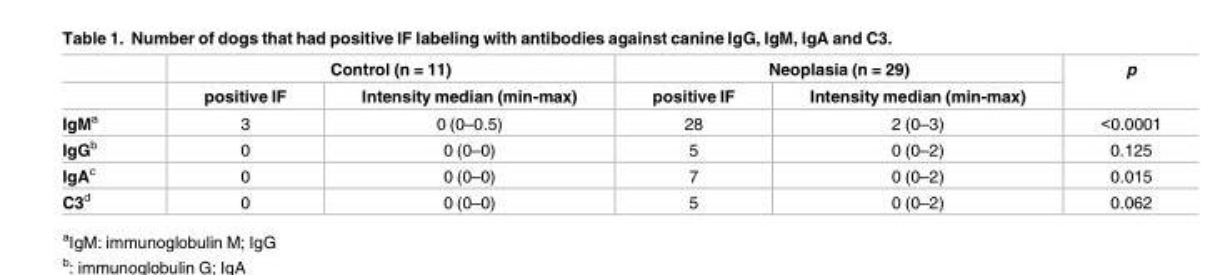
<table><thead><tr><td rowspan="2"></td><td colspan="2">Control (n = 11)</td><td colspan="2">Neoplasia (n = 29)</td><td rowspan="2">p</td></tr><tr><td>positive IF</td><td>Intensity median (min-max)</td><td>positive IF</td><td>Intensity median (min-max)</td></tr></thead><tbody><tr><td>IgM<sup>a</sup></td><td>3</td><td>0 (0–0.5)</td><td>28</td><td>2 (0–3)</td><td>&lt;0.0001</td></tr><tr><td>IgG<sup>b</sup></td><td>0</td><td>0 (0–0)</td><td>5</td><td>0 (0–2)</td><td>0.125</td></tr><tr><td>IgA<sup>c</sup></td><td>0</td><td>0 (0–0)</td><td>7</td><td>0 (0–2)</td><td>0.015</td></tr><tr><td>C3<sup>d</sup></td><td>0</td><td>0 (0–0)</td><td>5</td><td>0 (0–2)</td><td>0.062</td></tr></tbody></table>